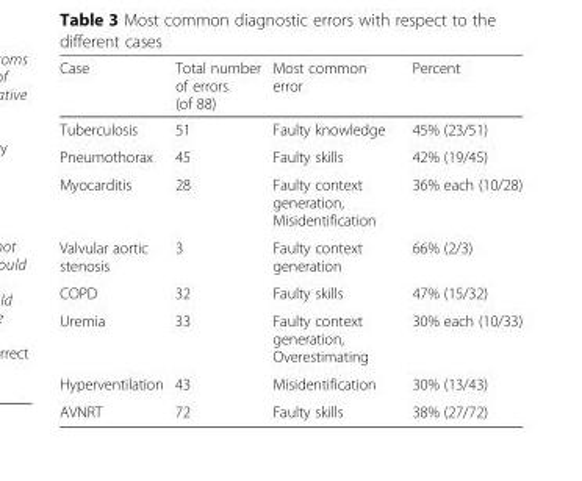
<table><thead><tr><td>Case</td><td>Total number of errors (of 88)</td><td>Most common error</td><td>Percent</td></tr></thead><tbody><tr><td>Tuberculosis</td><td>51</td><td>Faulty knowledge</td><td>45% (23/51)</td></tr><tr><td>Pneumothorax</td><td>45</td><td>Faulty skills</td><td>42% (19/45)</td></tr><tr><td>Myocarditis</td><td>28</td><td>Faulty context generation, Misidentification</td><td>36% each (10/28)</td></tr><tr><td>Valvular aortic stenosis</td><td>3</td><td>Faulty context generation</td><td>66% (2/3)</td></tr><tr><td>COPD</td><td>32</td><td>Faulty skills</td><td>47% (15/32)</td></tr><tr><td>Uremia</td><td>33</td><td>Faulty context generation, Overestimating</td><td>30% each (10/33)</td></tr><tr><td>Hyperventilation</td><td>43</td><td>Misidentification</td><td>30% (13/43)</td></tr><tr><td>AVNRT</td><td>72</td><td>Faulty skills</td><td>38% (27/72)</td></tr></tbody></table>